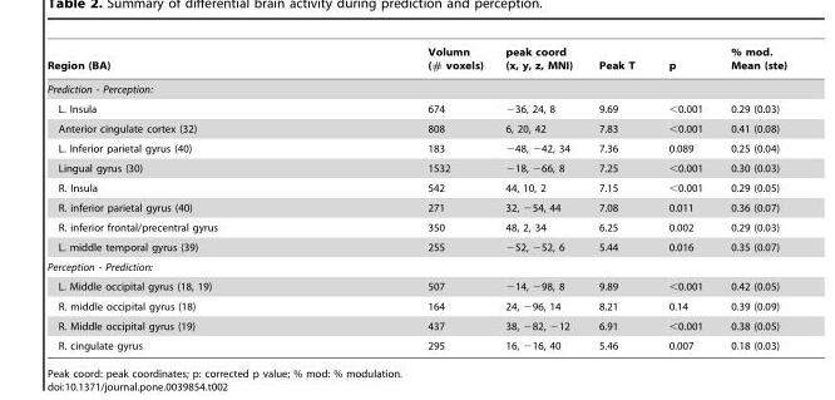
<table><thead><tr><td>Region (BA)</td><td>Volumn (# voxels)</td><td>peak coord (x, y, z, MNI)</td><td>Peak T</td><td>p</td><td>% mod. Mean (ste)</td></tr></thead><tbody><tr><td colspan="6">Prediction - Perception:</td></tr><tr><td>L. Insula</td><td>674</td><td>−36, 24, 8</td><td>9.69</td><td>&lt;0.001</td><td>0.29 (0.03)</td></tr><tr><td>Anterior cingulate cortex (32)</td><td>808</td><td>6, 20, 42</td><td>7.83</td><td>&lt;0.001</td><td>0.41 (0.08)</td></tr><tr><td>L. Inferior parietal gyrus (40)</td><td>183</td><td>−48, −42, 34</td><td>7.36</td><td>0.089</td><td>0.25 (0.04)</td></tr><tr><td>Lingual gyrus (30)</td><td>1532</td><td>−18, −66, 8</td><td>7.25</td><td>&lt;0.001</td><td>0.30 (0.03)</td></tr><tr><td>R. Insula</td><td>542</td><td>44, 10, 2</td><td>7.15</td><td>&lt;0.001</td><td>0.29 (0.05)</td></tr><tr><td>R. inferior parietal gyrus (40)</td><td>271</td><td>32, −54, 44</td><td>7.08</td><td>0.011</td><td>0.36 (0.07)</td></tr><tr><td>R. inferior frontal/precentral gyrus</td><td>350</td><td>48, 2, 34</td><td>6.25</td><td>0.002</td><td>0.29 (0.03)</td></tr><tr><td>L. middle temporal gyrus (39)</td><td>255</td><td>−52, −52, 6</td><td>5.44</td><td>0.016</td><td>0.35 (0.07)</td></tr><tr><td colspan="6">Perception - Prediction:</td></tr><tr><td>L. Middle occipital gyrus (18, 19)</td><td>507</td><td>−14, −98, 8</td><td>9.89</td><td>&lt;0.001</td><td>0.42 (0.05)</td></tr><tr><td>R. middle occipital gyrus (18)</td><td>164</td><td>24, −96, 14</td><td>8.21</td><td>0.14</td><td>0.39 (0.09)</td></tr><tr><td>R. Middle occipital gyrus (19)</td><td>437</td><td>38, −82, −12</td><td>6.91</td><td>&lt;0.001</td><td>0.38 (0.05)</td></tr><tr><td>R. cingulate gyrus</td><td>295</td><td>16, −16, 40</td><td>5.46</td><td>0.007</td><td>0.18 (0.03)</td></tr></tbody></table>